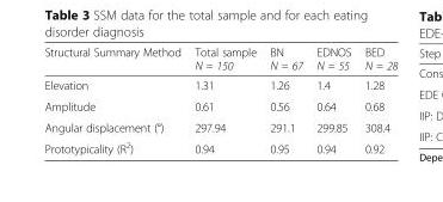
<table><thead><tr><td>Structural Summary Method</td><td>Total sample N = 150</td><td>BN N = 67</td><td>EDNOS N = 55</td><td>BED N = 28</td></tr></thead><tbody><tr><td>Elevation</td><td>1.31</td><td>1.26</td><td>1.4</td><td>1.28</td></tr><tr><td>Amplitude</td><td>0.61</td><td>0.56</td><td>0.64</td><td>0.68</td></tr><tr><td>Angular displacement (°)</td><td>297.94</td><td>291.1</td><td>299.85</td><td>308.4</td></tr><tr><td>Prototypicality (R<sup>2</sup>)</td><td>0.94</td><td>0.95</td><td>0.94</td><td>0.92</td></tr></tbody></table>